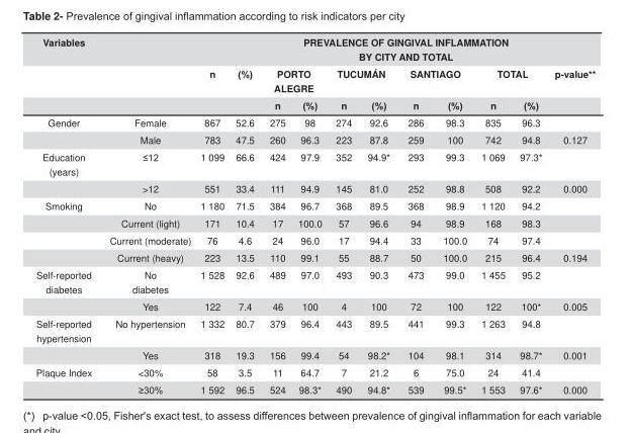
<table><thead><tr><td rowspan="3">Variables</td><td rowspan="3"></td><td colspan="11">PREVALENCE OF GINGIVAL INFLAMMATION BY CITY AND TOTAL</td></tr><tr><td rowspan="2">n</td><td rowspan="2">(%)</td><td colspan="2">PORTO ALEGRE</td><td colspan="2">TUCUMÁN</td><td colspan="2">SANTIAGO</td><td colspan="2">TOTAL</td><td rowspan="2">p-value**</td></tr><tr><td>n</td><td>(%)</td><td>n</td><td>(%)</td><td>n</td><td>(%)</td><td>n</td><td>(%)</td></tr></thead><tbody><tr><td rowspan="2">Gender</td><td>Female</td><td>867</td><td>52.6</td><td>275</td><td>98</td><td>274</td><td>92.6</td><td>286</td><td>98.3</td><td>835</td><td>96.3</td><td></td></tr><tr><td>Male</td><td>783</td><td>47.5</td><td>260</td><td>96.3</td><td>223</td><td>87.8</td><td>259</td><td>100</td><td>742</td><td>94.8</td><td>0.127</td></tr><tr><td rowspan="2">Education (years)</td><td>����</td><td>1 099</td><td>66.6</td><td>424</td><td>97.9</td><td>352</td><td>94.9*</td><td>293</td><td>99.3</td><td>1 069</td><td>97.3*</td><td></td></tr><tr><td>&gt;12</td><td>551</td><td>33.4</td><td>111</td><td>94.9</td><td>145</td><td>81.0</td><td>252</td><td>98.8</td><td>508</td><td>92.2</td><td>0.000</td></tr><tr><td rowspan="4">Smoking</td><td>No</td><td>1 180</td><td>71.5</td><td>384</td><td>96.7</td><td>368</td><td>89.5</td><td>368</td><td>98.9</td><td>1 120</td><td>94.2</td><td></td></tr><tr><td>Current (light)</td><td>171</td><td>10.4</td><td>17</td><td>100.0</td><td>57</td><td>96.6</td><td>94</td><td>98.9</td><td>168</td><td>98.3</td><td></td></tr><tr><td>Current (moderate)</td><td>76</td><td>4.6</td><td>24</td><td>96.0</td><td>17</td><td>94.4</td><td>33</td><td>100.0</td><td>74</td><td>97.4</td><td></td></tr><tr><td>Current (heavy)</td><td>223</td><td>13.5</td><td>110</td><td>99.1</td><td>55</td><td>88.7</td><td>50</td><td>100.0</td><td>215</td><td>96.4</td><td>0.194</td></tr><tr><td rowspan="2">Self-reported diabetes</td><td>No diabetes</td><td>1 528</td><td>92.6</td><td>489</td><td>97.0</td><td>493</td><td>90.3</td><td>473</td><td>99.0</td><td>1 455</td><td>95.2</td><td></td></tr><tr><td>Yes</td><td>122</td><td>7.4</td><td>46</td><td>100</td><td>4</td><td>100</td><td>72</td><td>100</td><td>122</td><td>100*</td><td>0.005</td></tr><tr><td rowspan="2">Self-reported hypertension</td><td>No hypertension</td><td>1 332</td><td>80.7</td><td>379</td><td>96.4</td><td>443</td><td>89.5</td><td>441</td><td>99.3</td><td>1 263</td><td>94.8</td><td></td></tr><tr><td>Yes</td><td>318</td><td>19.3</td><td>156</td><td>99.4</td><td>54</td><td>98.2*</td><td>104</td><td>98.1</td><td>314</td><td>98.7*</td><td>0.001</td></tr><tr><td rowspan="2">Plaque Index</td><td>&lt;30%</td><td>58</td><td>3.5</td><td>11</td><td>64.7</td><td>7</td><td>21.2</td><td>6</td><td>75.0</td><td>24</td><td>41.4</td><td></td></tr><tr><td>≥30%</td><td>1 592</td><td>96.5</td><td>524</td><td>98.3*</td><td>490</td><td>94.8*</td><td>539</td><td>99.5*</td><td>1 553</td><td>97.6*</td><td>0.000</td></tr></tbody></table>